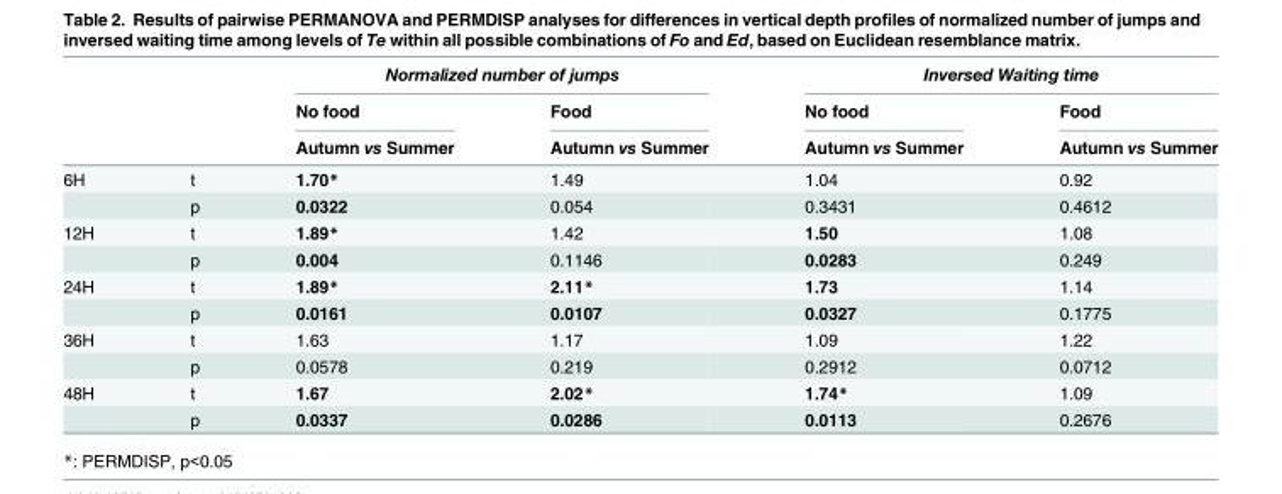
<table><thead><tr><td rowspan="3"></td><td rowspan="3"></td><td colspan="2">Normalized number of jumps</td><td colspan="2">Inversed Waiting time</td></tr><tr><td rowspan="2">No food Autumn vs Summer</td><td rowspan="2">Food Autumn vs Summer</td><td rowspan="2">No food Autumn vs Summer</td><td rowspan="2">Food Autumn vs Summer</td></tr><tr></tr></thead><tbody><tr><td rowspan="2">6H</td><td>t</td><td>1.70*</td><td>1.49</td><td>1.04</td><td>0.92</td></tr><tr><td>p</td><td>0.0322</td><td>0.054</td><td>0.3431</td><td>0.4612</td></tr><tr><td rowspan="2">12H</td><td>t</td><td>1.89*</td><td>1.42</td><td>1.50</td><td>1.08</td></tr><tr><td>p</td><td>0.004</td><td>0.1146</td><td>0.0283</td><td>0.249</td></tr><tr><td rowspan="2">24H</td><td>t</td><td>1.89*</td><td>2.11*</td><td>1.73</td><td>1.14</td></tr><tr><td>p</td><td>0.0161</td><td>0.0107</td><td>0.0327</td><td>0.1775</td></tr><tr><td rowspan="2">36H</td><td>t</td><td>1.63</td><td>1.17</td><td>1.09</td><td>1.22</td></tr><tr><td>p</td><td>0.0578</td><td>0.219</td><td>0.2912</td><td>0.0712</td></tr><tr><td rowspan="2">48H</td><td>t</td><td>1.67</td><td>2.02*</td><td>1.74*</td><td>1.09</td></tr><tr><td>p</td><td>0.0337</td><td>0.0286</td><td>0.0113</td><td>0.2676</td></tr></tbody></table>